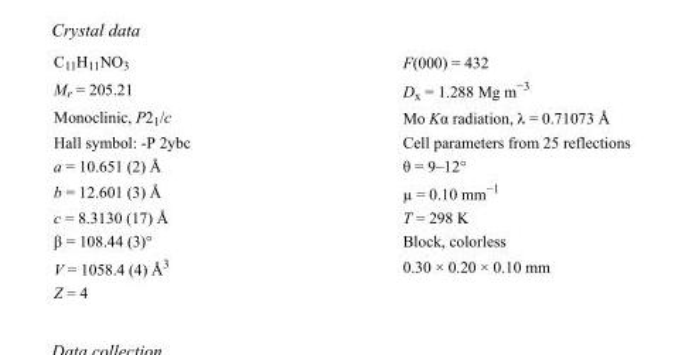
<table><tbody><tr><td>C<sub>11</sub>H<sub>11</sub>NO<sub>3</sub></td><td>F(000) = 432</td></tr><tr><td>M<sub>r</sub> = 205.21</td><td>D<sub>x</sub> = 1.288 Mg m<sup>−3</sup></td></tr><tr><td>Monoclinic, P2<sub>1</sub>/c</td><td>Mo Kα radiation, λ = 0.71073 Å</td></tr><tr><td>Hall symbol: -P 2ybc</td><td>Cell parameters from 25 reflections</td></tr><tr><td>a = 10.651 (2) Å</td><td>θ = 9–12°</td></tr><tr><td>b = 12.601 (3) Å</td><td>µ = 0.10 mm<sup>−1</sup></td></tr><tr><td>c = 8.3130 (17) Å</td><td>T = 298 K</td></tr><tr><td>β = 108.44 (3)°</td><td>Block, colorless</td></tr><tr><td>V = 1058.4 (4) Å<sup>3</sup></td><td>0.30 × 0.20 × 0.10 mm</td></tr><tr><td>Z = 4</td><td></td></tr></tbody></table>